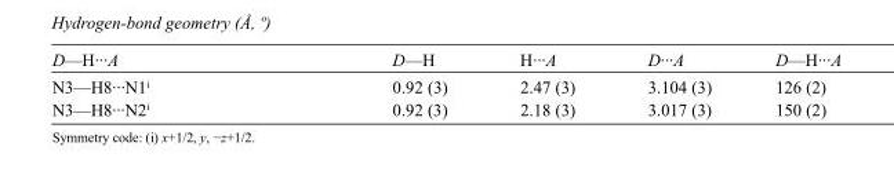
<table><tbody><tr><td>D—H···A</td><td>D—H</td><td>H···A</td><td>D···A</td><td>D—H···A</td></tr><tr><td>N3—H8···N1<sup>i</sup></td><td>0.92 (3)</td><td>2.47 (3)</td><td>3.104 (3)</td><td>126 (2)</td></tr><tr><td>N3—H8···N2<sup>i</sup></td><td>0.92 (3)</td><td>2.18 (3)</td><td>3.017 (3)</td><td>150 (2)</td></tr></tbody></table>